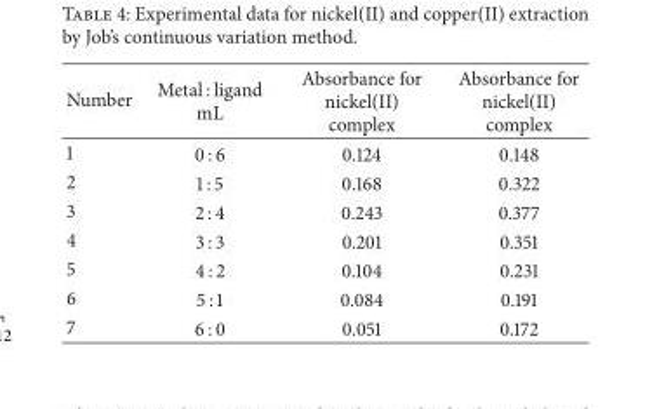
<table><thead><tr><td>Number</td><td>Metal : ligand mL</td><td>Absorbance for nickel(II) complex</td><td>Absorbance for nickel(II) complex</td></tr></thead><tbody><tr><td>1</td><td>0 : 6</td><td>0.124</td><td>0.148</td></tr><tr><td>2</td><td>1 : 5</td><td>0.168</td><td>0.322</td></tr><tr><td>3</td><td>2 : 4</td><td>0.243</td><td>0.377</td></tr><tr><td>4</td><td>3 : 3</td><td>0.201</td><td>0.351</td></tr><tr><td>5</td><td>4 : 2</td><td>0.104</td><td>0.231</td></tr><tr><td>6</td><td>5 : 1</td><td>0.084</td><td>0.191</td></tr><tr><td>7</td><td>6 : 0</td><td>0.051</td><td>0.172</td></tr></tbody></table>